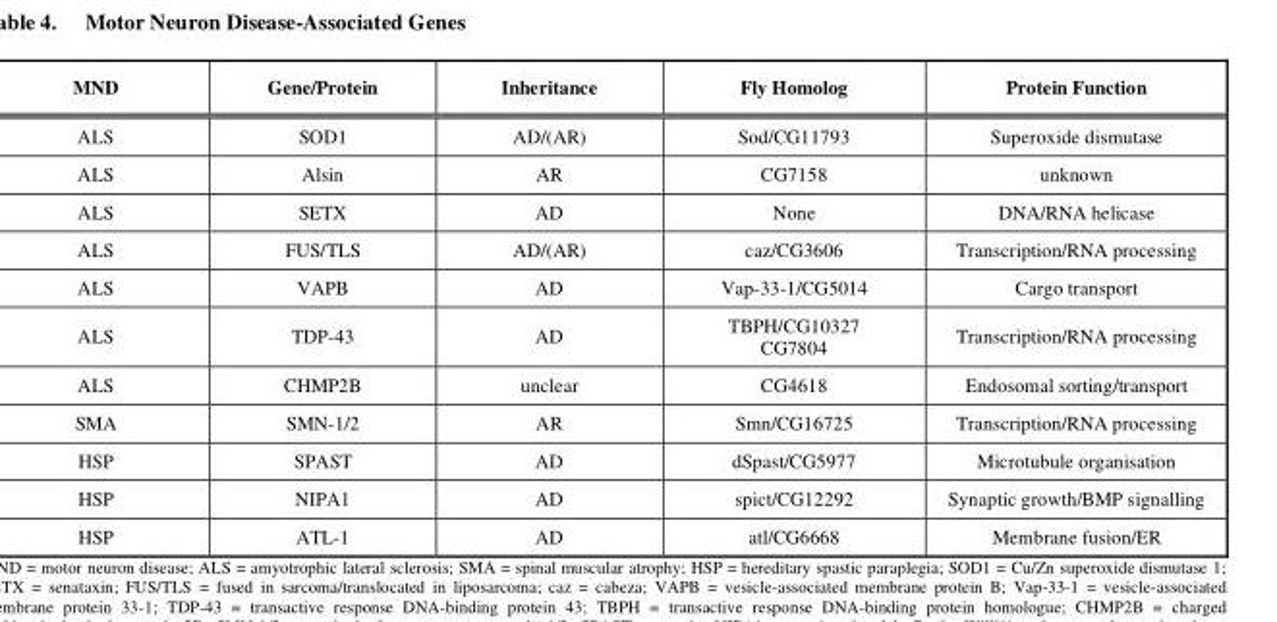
<table><thead><tr><td>MND</td><td>Gene/Protein</td><td>Inheritance</td><td>Fly Homolog</td><td>Protein Function</td></tr></thead><tbody><tr><td>ALS</td><td>SOD1</td><td>AD/(AR)</td><td>Sod/CG11793</td><td>Superoxide dismutase</td></tr><tr><td>ALS</td><td>Alsin</td><td>AR</td><td>CG7158</td><td>unknown</td></tr><tr><td>ALS</td><td>SETX</td><td>AD</td><td>None</td><td>DNA/RNA helicase</td></tr><tr><td>ALS</td><td>FUS/TLS</td><td>AD/(AR)</td><td>caz/CG3606</td><td>Transcription/RNA processing</td></tr><tr><td>ALS</td><td>VAPB</td><td>AD</td><td>Vap-33-1/CG5014</td><td>Cargo transport</td></tr><tr><td>ALS</td><td>TDP-43</td><td>AD</td><td>TBPH/CG10327 CG7804</td><td>Transcription/RNA processing</td></tr><tr><td>ALS</td><td>CHMP2B</td><td>unclear</td><td>CG4618</td><td>Endosomal sorting/transport</td></tr><tr><td>SMA</td><td>SMN-1/2</td><td>AR</td><td>Smn/CG16725</td><td>Transcription/RNA processing</td></tr><tr><td>HSP</td><td>SPAST</td><td>AD</td><td>dSpast/CG5977</td><td>Microtubule organisation</td></tr><tr><td>HSP</td><td>NIPA1</td><td>AD</td><td>spict/CG12292</td><td>Synaptic growth/BMP signalling</td></tr><tr><td>HSP</td><td>ATL-1</td><td>AD</td><td>atl/CG6668</td><td>Membrane fusion/ER</td></tr></tbody></table>